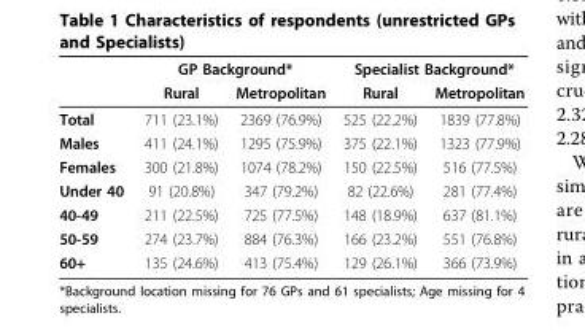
<table><thead><tr><td rowspan="2"></td><td colspan="2">GP Background*</td><td colspan="2">Specialist Background*</td></tr><tr><td>Rural</td><td>Metropolitan</td><td>Rural</td><td>Metropolitan</td></tr></thead><tbody><tr><td>Total</td><td>711 (23.1%)</td><td>2369 (76.9%)</td><td>525 (22.2%)</td><td>1839 (77.8%)</td></tr><tr><td>Males</td><td>411 (24.1%)</td><td>1295 (75.9%)</td><td>375 (22.1%)</td><td>1323 (77.9%)</td></tr><tr><td>Females</td><td>300 (21.8%)</td><td>1074 (78.2%)</td><td>150 (22.5%)</td><td>516 (77.5%)</td></tr><tr><td>Under 40</td><td>91 (20.8%)</td><td>347 (79.2%)</td><td>82 (22.6%)</td><td>281 (77.4%)</td></tr><tr><td>40-49</td><td>211 (22.5%)</td><td>725 (77.5%)</td><td>148 (18.9%)</td><td>637 (81.1%)</td></tr><tr><td>50-59</td><td>274 (23.7%)</td><td>884 (76.3%)</td><td>166 (23.2%)</td><td>551 (76.8%)</td></tr><tr><td>60+</td><td>135 (24.6%)</td><td>413 (75.4%)</td><td>129 (26.1%)</td><td>366 (73.9%)</td></tr></tbody></table>